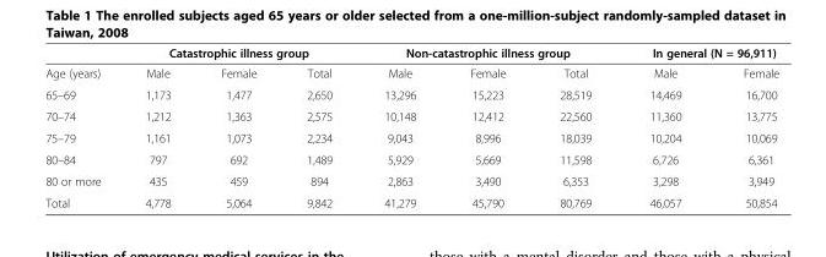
<table><thead><tr><td rowspan="2">Age (years)</td><td colspan="3">Catastrophic illness group</td><td colspan="3">Non-catastrophic illness group</td><td colspan="2">In general (N = 96,911)</td></tr><tr><td>Male</td><td>Female</td><td>Total</td><td>Male</td><td>Female</td><td>Total</td><td>Male</td><td>Female</td></tr></thead><tbody><tr><td>65–69</td><td>1,173</td><td>1,477</td><td>2,650</td><td>13,296</td><td>15,223</td><td>28,519</td><td>14,469</td><td>16,700</td></tr><tr><td>70–74</td><td>1,212</td><td>1,363</td><td>2,575</td><td>10,148</td><td>12,412</td><td>22,560</td><td>11,360</td><td>13,775</td></tr><tr><td>75–79</td><td>1,161</td><td>1,073</td><td>2,234</td><td>9,043</td><td>8,996</td><td>18,039</td><td>10,204</td><td>10,069</td></tr><tr><td>80–84</td><td>797</td><td>692</td><td>1,489</td><td>5,929</td><td>5,669</td><td>11,598</td><td>6,726</td><td>6,361</td></tr><tr><td>80 or more</td><td>435</td><td>459</td><td>894</td><td>2,863</td><td>3,490</td><td>6,353</td><td>3,298</td><td>3,949</td></tr><tr><td>Total</td><td>4,778</td><td>5,064</td><td>9,842</td><td>41,279</td><td>45,790</td><td>80,769</td><td>46,057</td><td>50,854</td></tr></tbody></table>